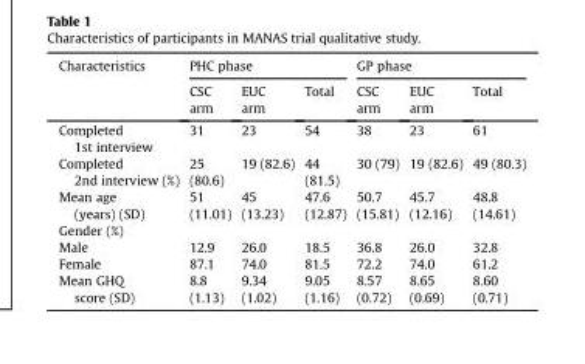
<table><thead><tr><td rowspan="2">Characteristics</td><td colspan="3">PHC phase</td><td colspan="3">GP phase</td></tr><tr><td>CSC arm</td><td>EUC arm</td><td>Total</td><td>CSC arm</td><td>EUC arm</td><td>Total</td></tr></thead><tbody><tr><td>Completed 1st interview</td><td>31</td><td>23</td><td>54</td><td>38</td><td>23</td><td>61</td></tr><tr><td>Completed 2nd interview (%)</td><td>25 (80.6)</td><td>19 (82.6)</td><td>44 (81.5)</td><td>30 (79)</td><td>19 (82.6)</td><td>49 (80.3)</td></tr><tr><td>Mean age (years) (SD)</td><td>51 (11.01)</td><td>45 (13.23)</td><td>47.6 (12.87)</td><td>50.7 (15.81)</td><td>45.7 (12.16)</td><td>48.8 (14.61)</td></tr><tr><td colspan="7">Gender (%)</td></tr><tr><td>Male</td><td>12.9</td><td>26.0</td><td>18.5</td><td>36.8</td><td>26.0</td><td>32.8</td></tr><tr><td>Female</td><td>87.1</td><td>74.0</td><td>81.5</td><td>72.2</td><td>74.0</td><td>61.2</td></tr><tr><td>Mean GHQ score (SD)</td><td>8.8 (1.13)</td><td>9.34 (1.02)</td><td>9.05 (1.16)</td><td>8.57 (0.72)</td><td>8.65 (0.69)</td><td>8.60 (0.71)</td></tr></tbody></table>